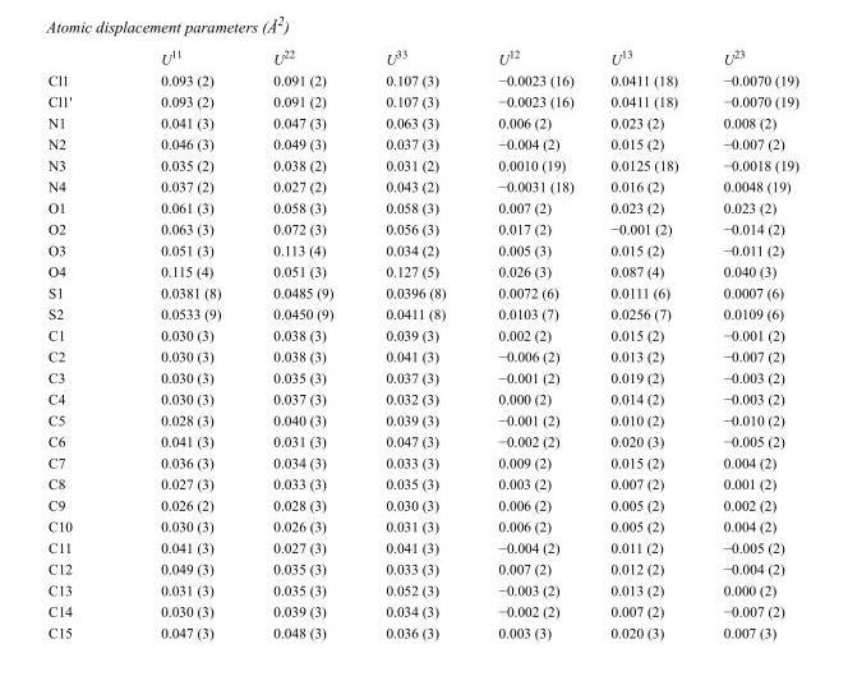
<table><thead><tr><td></td><td>U<sup>11</sup></td><td>U<sup>22</sup></td><td>U<sup>33</sup></td><td>U<sup>12</sup></td><td>U<sup>13</sup></td><td>U<sup>23</sup></td></tr></thead><tbody><tr><td>Cl1</td><td>0.093 (2)</td><td>0.091 (2)</td><td>0.107 (3)</td><td>−0.0023 (16)</td><td>0.0411 (18)</td><td>−0.0070 (19)</td></tr><tr><td>Cl1&#x27;</td><td>0.093 (2)</td><td>0.091 (2)</td><td>0.107 (3)</td><td>−0.0023 (16)</td><td>0.0411 (18)</td><td>−0.0070 (19)</td></tr><tr><td>N1</td><td>0.041 (3)</td><td>0.047 (3)</td><td>0.063 (3)</td><td>0.006 (2)</td><td>0.023 (2)</td><td>0.008 (2)</td></tr><tr><td>N2</td><td>0.046 (3)</td><td>0.049 (3)</td><td>0.037 (3)</td><td>−0.004 (2)</td><td>0.015 (2)</td><td>−0.007 (2)</td></tr><tr><td>N3</td><td>0.035 (2)</td><td>0.038 (2)</td><td>0.031 (2)</td><td>0.0010 (19)</td><td>0.0125 (18)</td><td>−0.0018 (19)</td></tr><tr><td>N4</td><td>0.037 (2)</td><td>0.027 (2)</td><td>0.043 (2)</td><td>−0.0031 (18)</td><td>0.016 (2)</td><td>0.0048 (19)</td></tr><tr><td>O1</td><td>0.061 (3)</td><td>0.058 (3)</td><td>0.058 (3)</td><td>0.007 (2)</td><td>0.023 (2)</td><td>0.023 (2)</td></tr><tr><td>O2</td><td>0.063 (3)</td><td>0.072 (3)</td><td>0.056 (3)</td><td>0.017 (2)</td><td>−0.001 (2)</td><td>−0.014 (2)</td></tr><tr><td>O3</td><td>0.051 (3)</td><td>0.113 (4)</td><td>0.034 (2)</td><td>0.005 (3)</td><td>0.015 (2)</td><td>−0.011 (2)</td></tr><tr><td>O4</td><td>0.115 (4)</td><td>0.051 (3)</td><td>0.127 (5)</td><td>0.026 (3)</td><td>0.087 (4)</td><td>0.040 (3)</td></tr><tr><td>S1</td><td>0.0381 (8)</td><td>0.0485 (9)</td><td>0.0396 (8)</td><td>0.0072 (6)</td><td>0.0111 (6)</td><td>0.0007 (6)</td></tr><tr><td>S2</td><td>0.0533 (9)</td><td>0.0450 (9)</td><td>0.0411 (8)</td><td>0.0103 (7)</td><td>0.0256 (7)</td><td>0.0109 (6)</td></tr><tr><td>C1</td><td>0.030 (3)</td><td>0.038 (3)</td><td>0.039 (3)</td><td>0.002 (2)</td><td>0.015 (2)</td><td>−0.001 (2)</td></tr><tr><td>C2</td><td>0.030 (3)</td><td>0.038 (3)</td><td>0.041 (3)</td><td>−0.006 (2)</td><td>0.013 (2)</td><td>−0.007 (2)</td></tr><tr><td>C3</td><td>0.030 (3)</td><td>0.035 (3)</td><td>0.037 (3)</td><td>−0.001 (2)</td><td>0.019 (2)</td><td>−0.003 (2)</td></tr><tr><td>C4</td><td>0.030 (3)</td><td>0.037 (3)</td><td>0.032 (3)</td><td>0.000 (2)</td><td>0.014 (2)</td><td>−0.003 (2)</td></tr><tr><td>C5</td><td>0.028 (3)</td><td>0.040 (3)</td><td>0.039 (3)</td><td>−0.001 (2)</td><td>0.010 (2)</td><td>−0.010 (2)</td></tr><tr><td>C6</td><td>0.041 (3)</td><td>0.031 (3)</td><td>0.047 (3)</td><td>−0.002 (2)</td><td>0.020 (3)</td><td>−0.005 (2)</td></tr><tr><td>C7</td><td>0.036 (3)</td><td>0.034 (3)</td><td>0.033 (3)</td><td>0.009 (2)</td><td>0.015 (2)</td><td>0.004 (2)</td></tr><tr><td>C8</td><td>0.027 (3)</td><td>0.033 (3)</td><td>0.035 (3)</td><td>0.003 (2)</td><td>0.007 (2)</td><td>0.001 (2)</td></tr><tr><td>C9</td><td>0.026 (2)</td><td>0.028 (3)</td><td>0.030 (3)</td><td>0.006 (2)</td><td>0.005 (2)</td><td>0.002 (2)</td></tr><tr><td>C10</td><td>0.030 (3)</td><td>0.026 (3)</td><td>0.031 (3)</td><td>0.006 (2)</td><td>0.005 (2)</td><td>0.004 (2)</td></tr><tr><td>C11</td><td>0.041 (3)</td><td>0.027 (3)</td><td>0.041 (3)</td><td>−0.004 (2)</td><td>0.011 (2)</td><td>−0.005 (2)</td></tr><tr><td>C12</td><td>0.049 (3)</td><td>0.035 (3)</td><td>0.033 (3)</td><td>0.007 (2)</td><td>0.012 (2)</td><td>−0.004 (2)</td></tr><tr><td>C13</td><td>0.031 (3)</td><td>0.035 (3)</td><td>0.052 (3)</td><td>−0.003 (2)</td><td>0.013 (2)</td><td>0.000 (2)</td></tr><tr><td>C14</td><td>0.030 (3)</td><td>0.039 (3)</td><td>0.034 (3)</td><td>−0.002 (2)</td><td>0.007 (2)</td><td>−0.007 (2)</td></tr><tr><td>C15</td><td>0.047 (3)</td><td>0.048 (3)</td><td>0.036 (3)</td><td>0.003 (3)</td><td>0.020 (3)</td><td>0.007 (3)</td></tr></tbody></table>